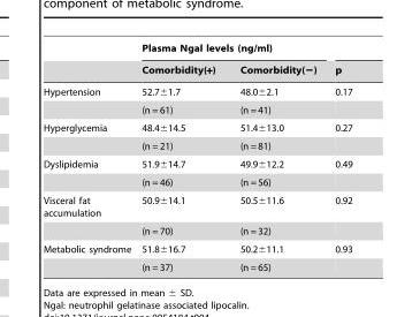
<table><thead><tr><td rowspan="2"></td><td colspan="2">Plasma Ngal levels (ng/ml)</td><td rowspan="2">p</td></tr><tr><td>Comorbidity(+)</td><td>Comorbidity(−)</td></tr></thead><tbody><tr><td rowspan="2">Hypertension</td><td>52.7±1.7</td><td>48.0±2.1</td><td>0.17</td></tr><tr><td>(n = 61)</td><td>(n = 41)</td><td></td></tr><tr><td rowspan="2">Hyperglycemia</td><td>48.4±14.5</td><td>51.4±13.0</td><td>0.27</td></tr><tr><td>(n = 21)</td><td>(n = 81)</td><td></td></tr><tr><td rowspan="2">Dyslipidemia</td><td>51.9±14.7</td><td>49.9±12.2</td><td>0.49</td></tr><tr><td>(n = 46)</td><td>(n = 56)</td><td></td></tr><tr><td rowspan="2">Visceral fat accumulation</td><td>50.9±14.1</td><td>50.5±11.6</td><td>0.92</td></tr><tr><td>(n = 70)</td><td>(n = 32)</td><td></td></tr><tr><td rowspan="2">Metabolic syndrome</td><td>51.8±16.7</td><td>50.2±11.1</td><td>0.93</td></tr><tr><td>(n = 37)</td><td>(n = 65)</td><td></td></tr></tbody></table>